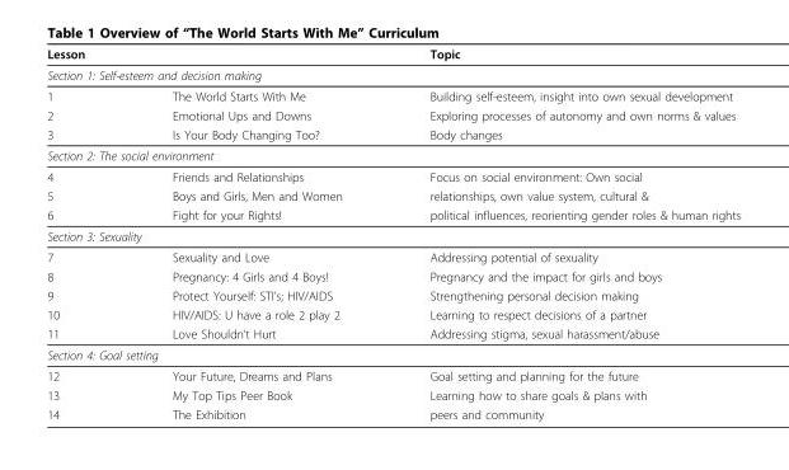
<table><thead><tr><td>Lesson</td><td></td><td>Topic</td></tr></thead><tbody><tr><td colspan="3">Section 1: Self-esteem and decision making</td></tr><tr><td>1</td><td>The World Starts With Me</td><td>Building self-esteem, insight into own sexual development</td></tr><tr><td>2</td><td>Emotional Ups and Downs</td><td>Exploring processes of autonomy and own norms &amp; values</td></tr><tr><td>3</td><td>Is Your Body Changing Too?</td><td>Body changes</td></tr><tr><td colspan="3">Section 2: The social environment</td></tr><tr><td>4</td><td>Friends and Relationships</td><td>Focus on social environment: Own social</td></tr><tr><td>5</td><td>Boys and Girls, Men and Women</td><td>relationships, own value system, cultural &amp;</td></tr><tr><td>6</td><td>Fight for your Rights!</td><td>political influences, reorienting gender roles &amp; human rights</td></tr><tr><td colspan="3">Section 3: Sexuality</td></tr><tr><td>7</td><td>Sexuality and Love</td><td>Addressing potential of sexuality</td></tr><tr><td>8</td><td>Pregnancy: 4 Girls and 4 Boys!</td><td>Pregnancy and the impact for girls and boys</td></tr><tr><td>9</td><td>Protect Yourself: STI’s; HIV/AIDS</td><td>Strengthening personal decision making</td></tr><tr><td>10</td><td>HIV/AIDS: U have a role 2 play 2</td><td>Learning to respect decisions of a partner</td></tr><tr><td>11</td><td>Love Shouldn’t Hurt</td><td>Addressing stigma, sexual harassment/abuse</td></tr><tr><td colspan="3">Section 4: Goal setting</td></tr><tr><td>12</td><td>Your Future, Dreams and Plans</td><td>Goal setting and planning for the future</td></tr><tr><td>13</td><td>My Top Tips Peer Book</td><td>Learning how to share goals &amp; plans with</td></tr><tr><td>14</td><td>The Exhibition</td><td>peers and community</td></tr></tbody></table>